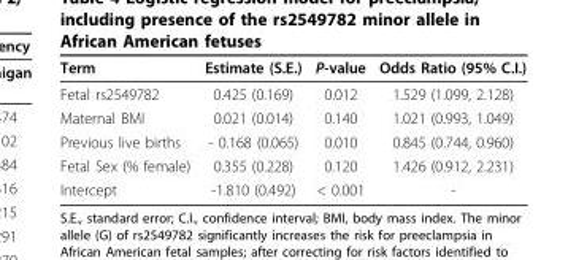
<table><thead><tr><td>Term</td><td>Estimate (S.E.)</td><td>P-value</td><td>Odds Ratio (95% C.I.)</td></tr></thead><tbody><tr><td>Fetal rs2549782</td><td>0.425 (0.169)</td><td>0.012</td><td>1.529 (1.099, 2.128)</td></tr><tr><td>Maternal BMI</td><td>0.021 (0.014)</td><td>0.140</td><td>1.021 (0.993, 1.049)</td></tr><tr><td>Previous live births</td><td>- 0.168 (0.065)</td><td>0.010</td><td>0.845 (0.744, 0.960)</td></tr><tr><td>Fetal Sex (% female)</td><td>0.355 (0.228)</td><td>0.120</td><td>1.426 (0.912, 2.231)</td></tr><tr><td>Intercept</td><td>-1.810 (0.492)</td><td>&lt; 0.001</td><td>-</td></tr></tbody></table>